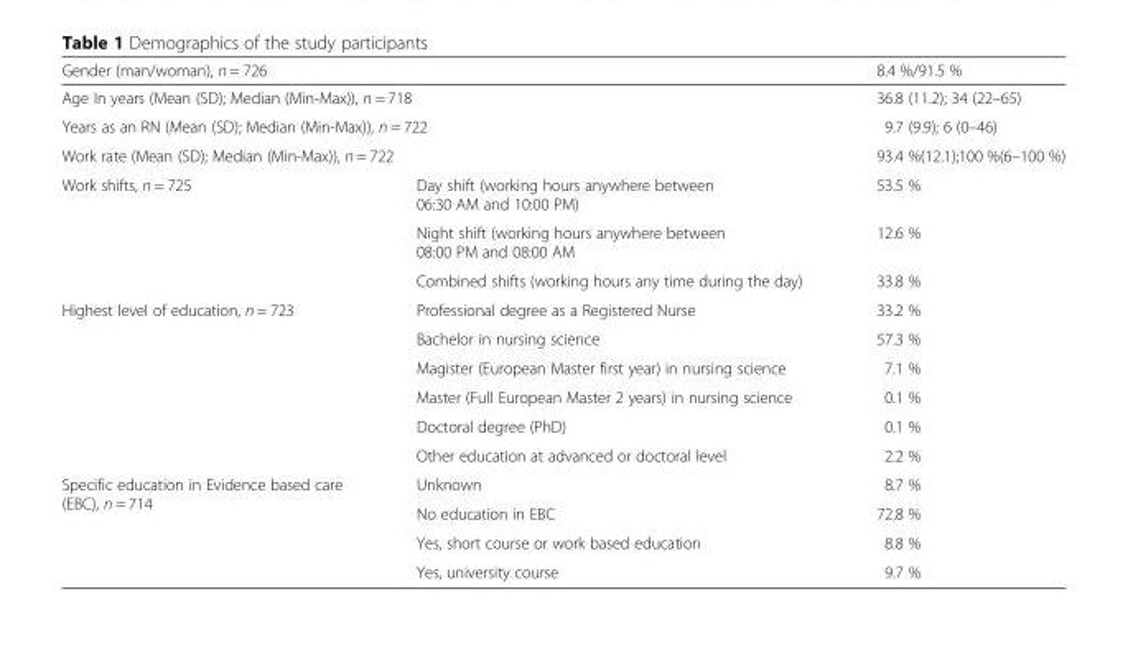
<table><thead><tr><td colspan="2">Gender (man/woman), n = 726</td><td>8.4 %/91.5 %</td></tr></thead><tbody><tr><td colspan="2">Age In years (Mean (SD); Median (Min-Max)), n = 718</td><td>36.8 (11.2); 34 (22–65)</td></tr><tr><td colspan="2">Years as an RN (Mean (SD); Median (Min-Max)), n = 722</td><td>9.7 (9.9); 6 (0–46)</td></tr><tr><td colspan="2">Work rate (Mean (SD); Median (Min-Max)), n = 722</td><td>93.4 %(12.1);100 %(6–100 %)</td></tr><tr><td rowspan="3">Work shifts, n = 725</td><td>Day shift (working hours anywhere between 06:30 AM and 10:00 PM)</td><td>53.5 %</td></tr><tr><td>Night shift (working hours anywhere between 08:00 PM and 08:00 AM</td><td>12.6 %</td></tr><tr><td>Combined shifts (working hours any time during the day)</td><td>33.8 %</td></tr><tr><td rowspan="6">Highest level of education, n = 723</td><td>Professional degree as a Registered Nurse</td><td>33.2 %</td></tr><tr><td>Bachelor in nursing science</td><td>57.3 %</td></tr><tr><td>Magister (European Master first year) in nursing science</td><td>7.1 %</td></tr><tr><td>Master (Full European Master 2 years) in nursing science</td><td>0.1 %</td></tr><tr><td>Doctoral degree (PhD)</td><td>0.1 %</td></tr><tr><td>Other education at advanced or doctoral level</td><td>2.2 %</td></tr><tr><td rowspan="4">Specific education in Evidence based care (EBC), n = 714</td><td>Unknown</td><td>8.7 %</td></tr><tr><td>No education in EBC</td><td>72.8 %</td></tr><tr><td>Yes, short course or work based education</td><td>8.8 %</td></tr><tr><td>Yes, university course</td><td>9.7 %</td></tr></tbody></table>